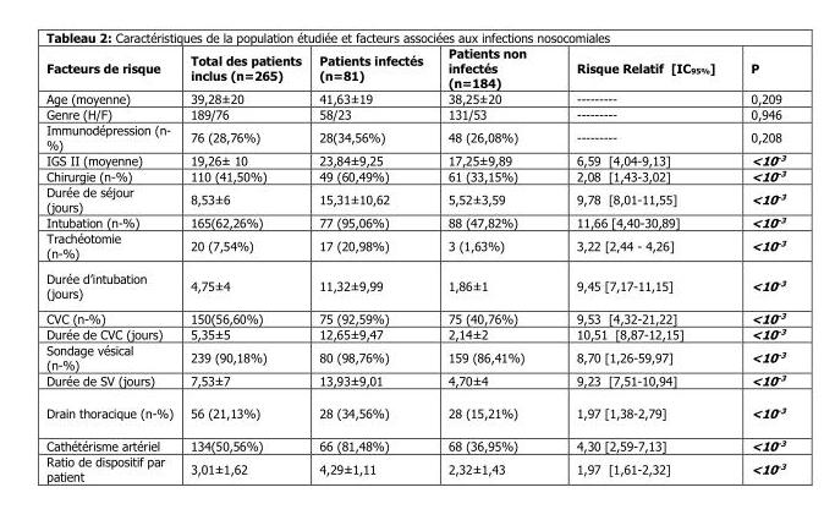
<table><thead><tr><td>Facteurs de risque</td><td>Total des patients inclus (n=265)</td><td>Patients infectés (n=81)</td><td>Patients non infectés (n=184)</td><td>Risque Relatif [IC<sub>95%</sub>]</td><td>P</td></tr></thead><tbody><tr><td>Age (moyenne)</td><td>39,28±20</td><td>41,63±19</td><td>38,25±20</td><td>---------</td><td>0,209</td></tr><tr><td>Genre (H/F)</td><td>189/76</td><td>58/23</td><td>131/53</td><td>---------</td><td>0,946</td></tr><tr><td>Immunodépression (n- %)</td><td>76 (28,76%)</td><td>28(34,56%)</td><td>48 (26,08%)</td><td>---------</td><td>0,208</td></tr><tr><td>IGS II (moyenne)</td><td>19,26± 10</td><td>23,84±9,25</td><td>17,25±9,89</td><td>6,59 [4,04-9,13]</td><td>&lt;10<sup>-3</sup></td></tr><tr><td>Chirurgie (n-%)</td><td>110 (41,50%)</td><td>49 (60,49%)</td><td>61 (33,15%)</td><td>2,08 [1,43-3,02]</td><td>&lt;10<sup>-3</sup></td></tr><tr><td>Durée de séjour (jours)</td><td>8,53±6</td><td>15,31±10,62</td><td>5,52±3,59</td><td>9,78 [8,01-11,55]</td><td>&lt;10<sup>-3</sup></td></tr><tr><td>Intubation (n-%)</td><td>165(62,26%)</td><td>77 (95,06%)</td><td>88 (47,82%)</td><td>11,66 [4,40-30,89]</td><td>&lt;10<sup>-3</sup></td></tr><tr><td>Trachéotomie (n-%)</td><td>20 (7,54%)</td><td>17 (20,98%)</td><td>3 (1,63%)</td><td>3,22 [2,44 - 4,26]</td><td>&lt;10<sup>-3</sup></td></tr><tr><td>Durée d’intubation (jours)</td><td>4,75±4</td><td>11,32±9,99</td><td>1,86±1</td><td>9,45 [7,17-11,15]</td><td>&lt;10<sup>-3</sup></td></tr><tr><td>CVC (n-%)</td><td>150(56,60%)</td><td>75 (92,59%)</td><td>75 (40,76%)</td><td>9,53 [4,32-21,22]</td><td>&lt;10<sup>-3</sup></td></tr><tr><td>Durée de CVC (jours)</td><td>5,35±5</td><td>12,65±9,47</td><td>2,14±2</td><td>10,51 [8,87-12,15]</td><td>&lt;10<sup>-3</sup></td></tr><tr><td>Sondage vésical (n-%)</td><td>239 (90,18%)</td><td>80 (98,76%)</td><td>159 (86,41%)</td><td>8,70 [1,26-59,97]</td><td>&lt;10<sup>-3</sup></td></tr><tr><td>Durée de SV (jours)</td><td>7,53±7</td><td>13,93±9,01</td><td>4,70±4</td><td>9,23 [7,51-10,94]</td><td>&lt;10<sup>-3</sup></td></tr><tr><td>Drain thoracique (n-%)</td><td>56 (21,13%)</td><td>28 (34,56%)</td><td>28 (15,21%)</td><td>1,97 [1,38-2,79]</td><td>&lt;10<sup>-3</sup></td></tr><tr><td>Cathétérisme artériel</td><td>134(50,56%)</td><td>66 (81,48%)</td><td>68 (36,95%)</td><td>4,30 [2,59-7,13]</td><td>&lt;10<sup>-3</sup></td></tr><tr><td>Ratio de dispositif par patient</td><td>3,01±1,62</td><td>4,29±1,11</td><td>2,32±1,43</td><td>1,97 [1,61-2,32]</td><td>&lt;10<sup>-3</sup></td></tr></tbody></table>